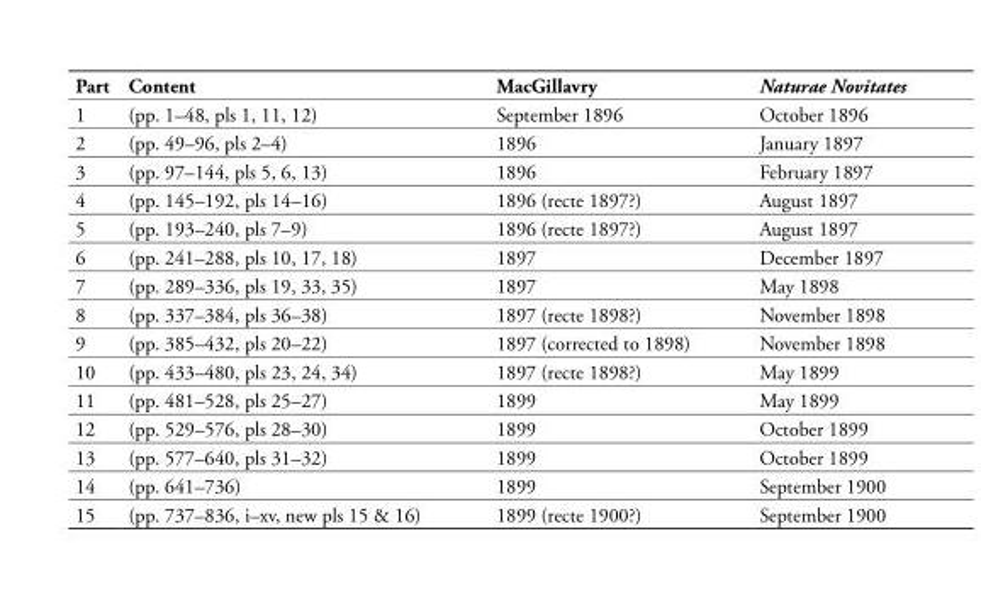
<table><thead><tr><td>Part</td><td>Content</td><td>MacGillavry</td><td>Naturae Novitates</td></tr></thead><tbody><tr><td>1</td><td>(pp. 1–48, pls 1, 11, 12)</td><td>September 1896</td><td>October 1896</td></tr><tr><td>2</td><td>(pp. 49–96, pls 2–4)</td><td>1896</td><td>January 1897</td></tr><tr><td>3</td><td>(pp. 97–144, pls 5, 6, 13)</td><td>1896</td><td>February 1897</td></tr><tr><td>4</td><td>(pp. 145–192, pls 14–16)</td><td>1896 (recte 1897?)</td><td>August 1897</td></tr><tr><td>5</td><td>(pp. 193–240, pls 7–9)</td><td>1896 (recte 1897?)</td><td>August 1897</td></tr><tr><td>6</td><td>(pp. 241–288, pls 10, 17, 18)</td><td>1897</td><td>December 1897</td></tr><tr><td>7</td><td>(pp. 289–336, pls 19, 33, 35)</td><td>1897</td><td>May 1898</td></tr><tr><td>8</td><td>(pp. 337–384, pls 36–38)</td><td>1897 (recte 1898?)</td><td>November 1898</td></tr><tr><td>9</td><td>(pp. 385–432, pls 20–22)</td><td>1897 (corrected to 1898)</td><td>November 1898</td></tr><tr><td>10</td><td>(pp. 433–480, pls 23, 24, 34)</td><td>1897 (recte 1898?)</td><td>May 1899</td></tr><tr><td>11</td><td>(pp. 481–528, pls 25–27)</td><td>1899</td><td>May 1899</td></tr><tr><td>12</td><td>(pp. 529–576, pls 28–30)</td><td>1899</td><td>October 1899</td></tr><tr><td>13</td><td>(pp. 577–640, pls 31–32)</td><td>1899</td><td>October 1899</td></tr><tr><td>14</td><td>(pp. 641–736)</td><td>1899</td><td>September 1900</td></tr><tr><td>15</td><td>(pp. 737–836, i–xv, new pls 15 &amp; 16)</td><td>1899 (recte 1900?)</td><td>September 1900</td></tr></tbody></table>